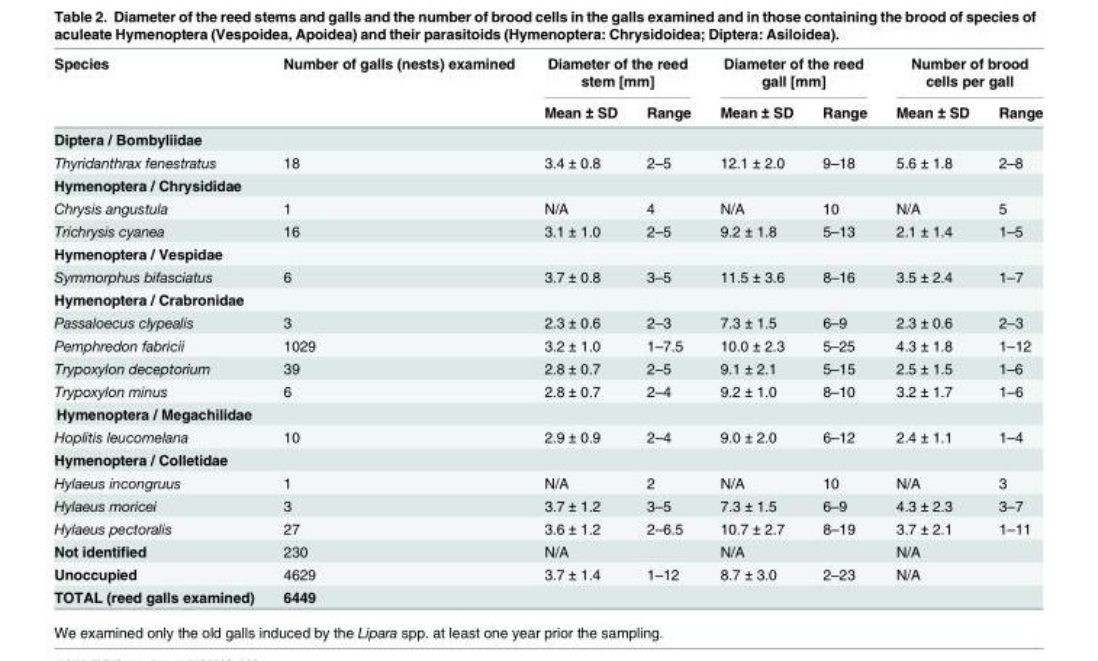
<table><thead><tr><td rowspan="2">Species</td><td rowspan="2">Number of galls (nests) examined</td><td colspan="2">Diameter of the reed stem [mm]</td><td colspan="2">Diameter of the reed gall [mm]</td><td colspan="2">Number of brood cells per gall</td></tr><tr><td>Mean ± SD</td><td>Range</td><td>Mean ± SD</td><td>Range</td><td>Mean ± SD</td><td>Range</td></tr></thead><tbody><tr><td colspan="8">Diptera / Bombyliidae</td></tr><tr><td>Thyridanthrax fenestratus</td><td>18</td><td>3.4 ± 0.8</td><td>2–5</td><td>12.1 ± 2.0</td><td>9–18</td><td>5.6 ± 1.8</td><td>2–8</td></tr><tr><td colspan="8">Hymenoptera / Chrysididae</td></tr><tr><td>Chrysis angustula</td><td>1</td><td>N/A</td><td>4</td><td>N/A</td><td>10</td><td>N/A</td><td>5</td></tr><tr><td>Trichrysis cyanea</td><td>16</td><td>3.1 ± 1.0</td><td>2–5</td><td>9.2 ± 1.8</td><td>5–13</td><td>2.1 ± 1.4</td><td>1–5</td></tr><tr><td colspan="8">Hymenoptera / Vespidae</td></tr><tr><td>Symmorphus bifasciatus</td><td>6</td><td>3.7 ± 0.8</td><td>3–5</td><td>11.5 ± 3.6</td><td>8–16</td><td>3.5 ± 2.4</td><td>1–7</td></tr><tr><td colspan="8">Hymenoptera / Crabronidae</td></tr><tr><td>Passaloecus clypealis</td><td>3</td><td>2.3 ± 0.6</td><td>2–3</td><td>7.3 ± 1.5</td><td>6–9</td><td>2.3 ± 0.6</td><td>2–3</td></tr><tr><td>Pemphredon fabricii</td><td>1029</td><td>3.2 ± 1.0</td><td>1–7.5</td><td>10.0 ± 2.3</td><td>5–25</td><td>4.3 ± 1.8</td><td>1–12</td></tr><tr><td>Trypoxylon deceptorium</td><td>39</td><td>2.8 ± 0.7</td><td>2–5</td><td>9.1 ± 2.1</td><td>5–15</td><td>2.5 ± 1.5</td><td>1–6</td></tr><tr><td>Trypoxylon minus</td><td>6</td><td>2.8 ± 0.7</td><td>2–4</td><td>9.2 ± 1.0</td><td>8–10</td><td>3.2 ± 1.7</td><td>1–6</td></tr><tr><td colspan="8">Hymenoptera / Megachilidae</td></tr><tr><td>Hoplitis leucomelana</td><td>10</td><td>2.9 ± 0.9</td><td>2–4</td><td>9.0 ± 2.0</td><td>6–12</td><td>2.4 ± 1.1</td><td>1–4</td></tr><tr><td colspan="8">Hymenoptera / Colletidae</td></tr><tr><td>Hylaeus incongruus</td><td>1</td><td>N/A</td><td>2</td><td>N/A</td><td>10</td><td>N/A</td><td>3</td></tr><tr><td>Hylaeus moricei</td><td>3</td><td>3.7 ± 1.2</td><td>3–5</td><td>7.3 ± 1.5</td><td>6–9</td><td>4.3 ± 2.3</td><td>3–7</td></tr><tr><td>Hylaeus pectoralis</td><td>27</td><td>3.6 ± 1.2</td><td>2–6.5</td><td>10.7 ± 2.7</td><td>8–19</td><td>3.7 ± 2.1</td><td>1–11</td></tr><tr><td>Not identified</td><td>230</td><td>N/A</td><td></td><td>N/A</td><td></td><td>N/A</td><td></td></tr><tr><td>Unoccupied</td><td>4629</td><td>3.7 ± 1.4</td><td>1–12</td><td>8.7 ± 3.0</td><td>2–23</td><td>N/A</td><td></td></tr><tr><td>TOTAL (reed galls examined)</td><td>6449</td><td></td><td></td><td></td><td></td><td></td><td></td></tr></tbody></table>